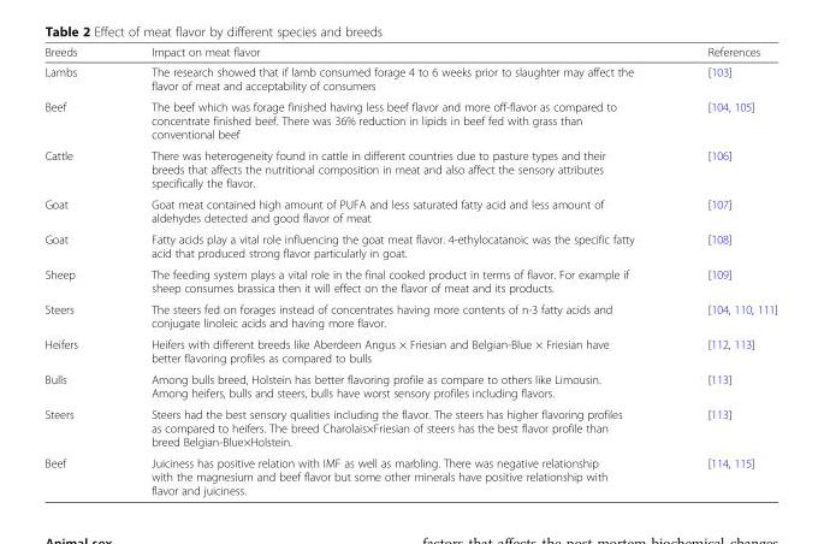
<table><thead><tr><td>Breeds</td><td>Impact on meat flavor</td><td>References</td></tr></thead><tbody><tr><td>Lambs</td><td>The research showed that if lamb consumed forage 4 to 6 weeks prior to slaughter may affect the flavor of meat and acceptability of consumers</td><td>[103]</td></tr><tr><td>Beef</td><td>The beef which was forage finished having less beef flavor and more off-flavor as compared to concentrate finished beef. There was 36% reduction in lipids in beef fed with grass than conventional beef</td><td>[104, 105]</td></tr><tr><td>Cattle</td><td>There was heterogeneity found in cattle in different countries due to pasture types and their breeds that affects the nutritional composition in meat and also affect the sensory attributes specifically the flavor.</td><td>[106]</td></tr><tr><td>Goat</td><td>Goat meat contained high amount of PUFA and less saturated fatty acid and less amount of aldehydes detected and good flavor of meat</td><td>[107]</td></tr><tr><td>Goat</td><td>Fatty acids play a vital role influencing the goat meat flavor. 4-ethylocatanoic was the specific fatty acid that produced strong flavor particularly in goat.</td><td>[108]</td></tr><tr><td>Sheep</td><td>The feeding system plays a vital role in the final cooked product in terms of flavor. For example if sheep consumes brassica then it will effect on the flavor of meat and its products.</td><td>[109]</td></tr><tr><td>Steers</td><td>The steers fed on forages instead of concentrates having more contents of n-3 fatty acids and conjugate linoleic acids and having more flavor.</td><td>[104, 110, 111]</td></tr><tr><td>Heifers</td><td>Heifers with different breeds like Aberdeen Angus × Friesian and Belgian-Blue × Friesian have better flavoring profiles as compared to bulls</td><td>[112, 113]</td></tr><tr><td>Bulls</td><td>Among bulls breed, Holstein has better flavoring profile as compare to others like Limousin. Among heifers, bulls and steers, bulls have worst sensory profiles including flavors.</td><td>[113]</td></tr><tr><td>Steers</td><td>Steers had the best sensory qualities including the flavor. The steers has higher flavoring profiles as compared to heifers. The breed Charolais×Friesian of steers has the best flavor profile than breed Belgian-Blue×Holstein.</td><td>[113]</td></tr><tr><td>Beef</td><td>Juiciness has positive relation with IMF as well as marbling. There was negative relationship with the magnesium and beef flavor but some other minerals have positive relationship with flavor and juiciness.</td><td>[114, 115]</td></tr></tbody></table>